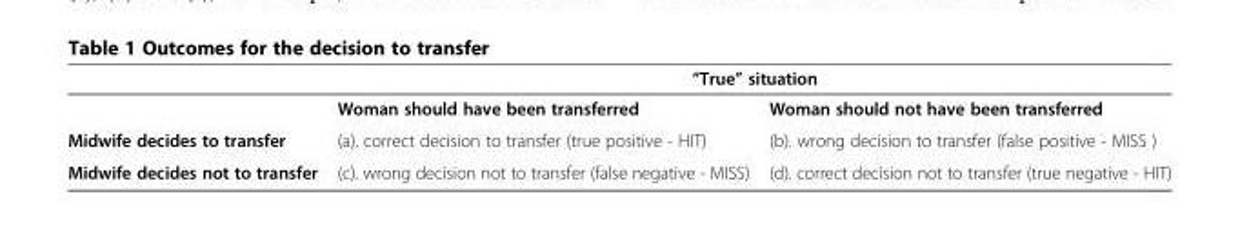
<table><thead><tr><td rowspan="2"></td><td colspan="2">“True” situation</td></tr><tr><td>Woman should have been transferred</td><td>Woman should not have been transferred</td></tr></thead><tbody><tr><td>Midwife decides to transfer</td><td>(a). correct decision to transfer (true positive - HIT)</td><td>(b). wrong decision to transfer (false positive - MISS )</td></tr><tr><td>Midwife decides not to transfer</td><td>(c). wrong decision not to transfer (false negative - MISS)</td><td>(d). correct decision not to transfer (true negative - HIT)</td></tr></tbody></table>